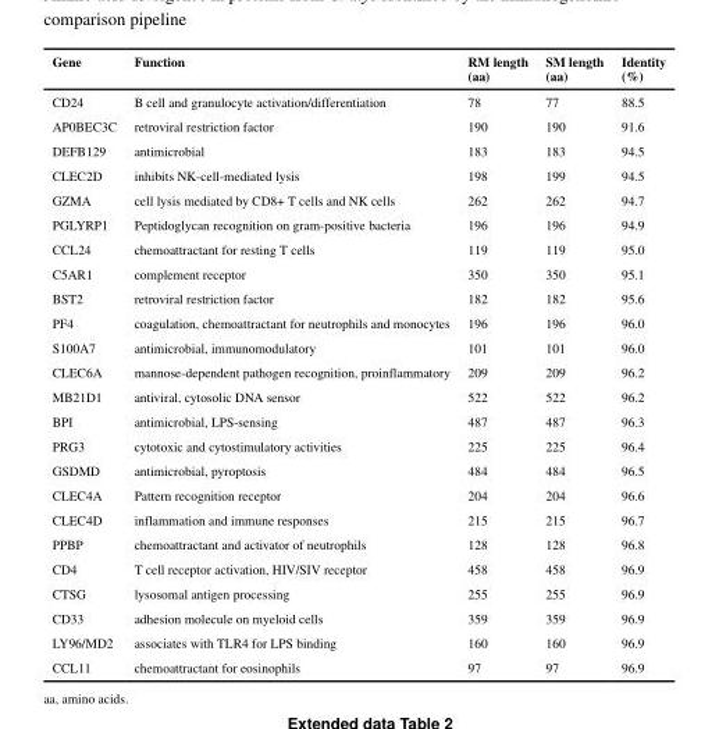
<table><thead><tr><td>Gene</td><td>Function</td><td>RM length (aa)</td><td>SM length (aa)</td><td>Identity (%)</td></tr></thead><tbody><tr><td>CD24</td><td>B cell and granulocyte activation/differentiation</td><td>78</td><td>77</td><td>88.5</td></tr><tr><td>AP0BEC3C</td><td>retroviral restriction factor</td><td>190</td><td>190</td><td>91.6</td></tr><tr><td>DEFB129</td><td>antimicrobial</td><td>183</td><td>183</td><td>94.5</td></tr><tr><td>CLEC2D</td><td>inhibits NK-cell-mediated lysis</td><td>198</td><td>199</td><td>94.5</td></tr><tr><td>GZMA</td><td>cell lysis mediated by CD8+ T cells and NK cells</td><td>262</td><td>262</td><td>94.7</td></tr><tr><td>PGLYRP1</td><td>Peptidoglycan recognition on gram-positive bacteria</td><td>196</td><td>196</td><td>94.9</td></tr><tr><td>CCL24</td><td>chemoattractant for resting T cells</td><td>119</td><td>119</td><td>95.0</td></tr><tr><td>C5AR1</td><td>complement receptor</td><td>350</td><td>350</td><td>95.1</td></tr><tr><td>BST2</td><td>retroviral restriction factor</td><td>182</td><td>182</td><td>95.6</td></tr><tr><td>PF4</td><td>coagulation, chemoattractant for neutrophils and monocytes</td><td>196</td><td>196</td><td>96.0</td></tr><tr><td>S100A7</td><td>antimicrobial, immunomodulatory</td><td>101</td><td>101</td><td>96.0</td></tr><tr><td>CLEC6A</td><td>mannose-dependent pathogen recognition, proinflammatory</td><td>209</td><td>209</td><td>96.2</td></tr><tr><td>MB21D1</td><td>antiviral, cytosolic DNA sensor</td><td>522</td><td>522</td><td>96.2</td></tr><tr><td>BPI</td><td>antimicrobial, LPS-sensing</td><td>487</td><td>487</td><td>96.3</td></tr><tr><td>PRG3</td><td>cytotoxic and cytostimulatory activities</td><td>225</td><td>225</td><td>96.4</td></tr><tr><td>GSDMD</td><td>antimicrobial, pyroptosis</td><td>484</td><td>484</td><td>96.5</td></tr><tr><td>CLEC4A</td><td>Pattern recognition receptor</td><td>204</td><td>204</td><td>96.6</td></tr><tr><td>CLEC4D</td><td>inflammation and immune responses</td><td>215</td><td>215</td><td>96.7</td></tr><tr><td>PPBP</td><td>chemoattractant and activator of neutrophils</td><td>128</td><td>128</td><td>96.8</td></tr><tr><td>CD4</td><td>T cell receptor activation, HIV/SIV receptor</td><td>458</td><td>458</td><td>96.9</td></tr><tr><td>CTSG</td><td>lysosomal antigen processing</td><td>255</td><td>255</td><td>96.9</td></tr><tr><td>CD33</td><td>adhesion molecule on myeloid cells</td><td>359</td><td>359</td><td>96.9</td></tr><tr><td>LY96/MD2</td><td>associates with TLR4 for LPS binding</td><td>160</td><td>160</td><td>96.9</td></tr><tr><td>CCL11</td><td>chemoattractant for eosinophils</td><td>97</td><td>97</td><td>96.9</td></tr></tbody></table>